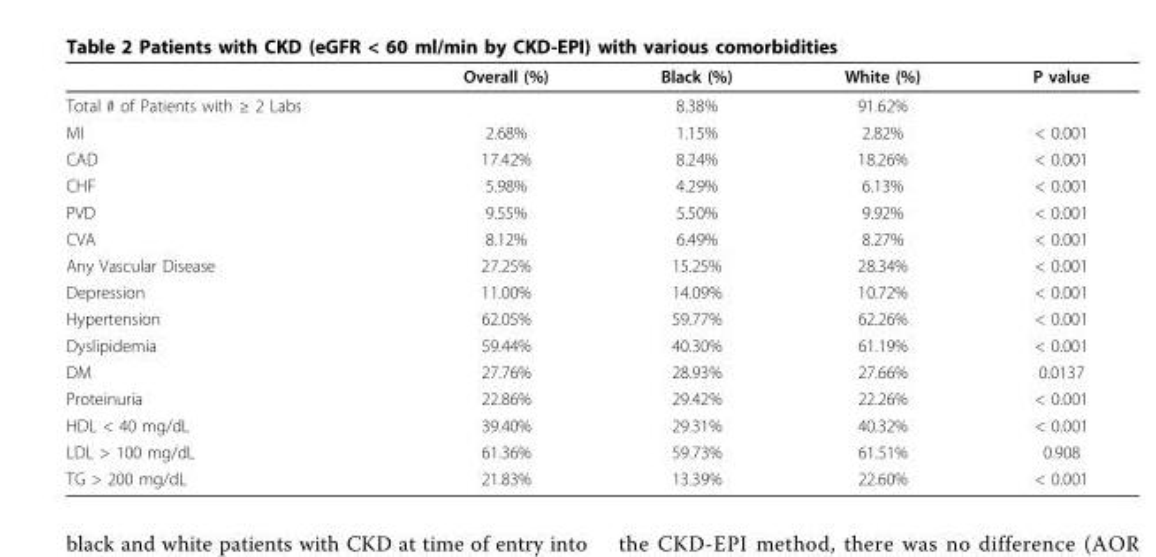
<table><thead><tr><td></td><td>Overall (%)</td><td>Black (%)</td><td>White (%)</td><td>P value</td></tr></thead><tbody><tr><td>Total # of Patients with ≥ 2 Labs</td><td></td><td>8.38%</td><td>91.62%</td><td></td></tr><tr><td>MI</td><td>2.68%</td><td>1.15%</td><td>2.82%</td><td>&lt; 0.001</td></tr><tr><td>CAD</td><td>17.42%</td><td>8.24%</td><td>18.26%</td><td>&lt; 0.001</td></tr><tr><td>CHF</td><td>5.98%</td><td>4.29%</td><td>6.13%</td><td>&lt; 0.001</td></tr><tr><td>PVD</td><td>9.55%</td><td>5.50%</td><td>9.92%</td><td>&lt; 0.001</td></tr><tr><td>CVA</td><td>8.12%</td><td>6.49%</td><td>8.27%</td><td>&lt; 0.001</td></tr><tr><td>Any Vascular Disease</td><td>27.25%</td><td>15.25%</td><td>28.34%</td><td>&lt; 0.001</td></tr><tr><td>Depression</td><td>11.00%</td><td>14.09%</td><td>10.72%</td><td>&lt; 0.001</td></tr><tr><td>Hypertension</td><td>62.05%</td><td>59.77%</td><td>62.26%</td><td>&lt; 0.001</td></tr><tr><td>Dyslipidemia</td><td>59.44%</td><td>40.30%</td><td>61.19%</td><td>&lt; 0.001</td></tr><tr><td>DM</td><td>27.76%</td><td>28.93%</td><td>27.66%</td><td>0.0137</td></tr><tr><td>Proteinuria</td><td>22.86%</td><td>29.42%</td><td>22.26%</td><td>&lt; 0.001</td></tr><tr><td>HDL &lt; 40 mg/dL</td><td>39.40%</td><td>29.31%</td><td>40.32%</td><td>&lt; 0.001</td></tr><tr><td>LDL &gt; 100 mg/dL</td><td>61.36%</td><td>59.73%</td><td>61.51%</td><td>0.908</td></tr><tr><td>TG &gt; 200 mg/dL</td><td>21.83%</td><td>13.39%</td><td>22.60%</td><td>&lt; 0.001</td></tr></tbody></table>